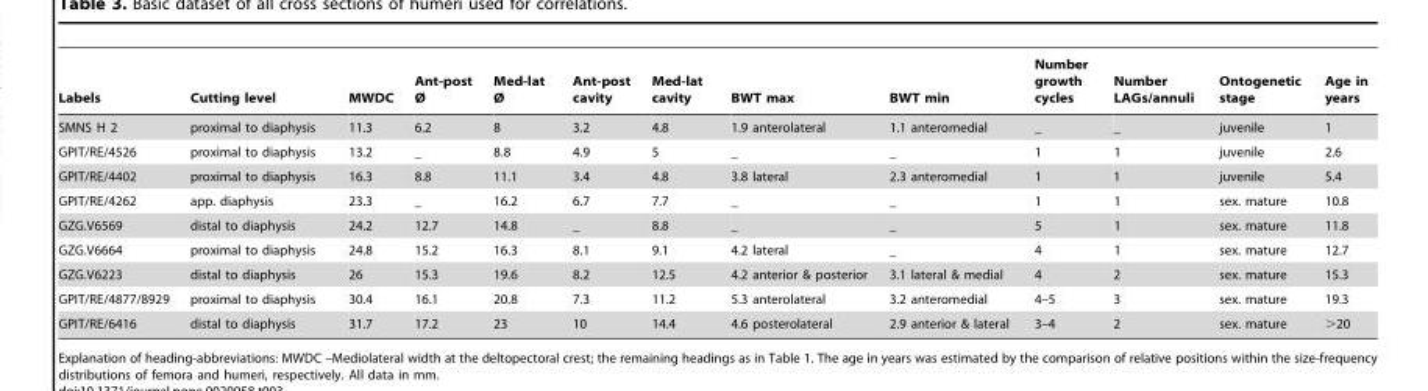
<table><thead><tr><td>Labels</td><td>Cutting level</td><td>MWDC</td><td>Ant-post Ø</td><td>Med-lat Ø</td><td>Ant-post cavity</td><td>Med-lat cavity</td><td>BWT max</td><td>BWT min</td><td>Number growth cycles</td><td>Number LAGs/annuli</td><td>Ontogenetic stage</td><td>Age in years</td></tr></thead><tbody><tr><td>SMNS H 2</td><td>proximal to diaphysis</td><td>11.3</td><td>6.2</td><td>8</td><td>3.2</td><td>4.8</td><td>1.9 anterolateral</td><td>1.1 anteromedial</td><td>―</td><td>―</td><td>juvenile</td><td>1</td></tr><tr><td>GPIT/RE/4526</td><td>proximal to diaphysis</td><td>13.2</td><td>―</td><td>8.8</td><td>4.9</td><td>5</td><td>―</td><td>―</td><td>1</td><td>1</td><td>juvenile</td><td>2.6</td></tr><tr><td>GPIT/RE/4402</td><td>proximal to diaphysis</td><td>16.3</td><td>8.8</td><td>11.1</td><td>3.4</td><td>4.8</td><td>3.8 lateral</td><td>2.3 anteromedial</td><td>1</td><td>1</td><td>juvenile</td><td>5.4</td></tr><tr><td>GPIT/RE/4262</td><td>app. diaphysis</td><td>23.3</td><td>―</td><td>16.2</td><td>6.7</td><td>7.7</td><td>―</td><td>―</td><td>1</td><td>1</td><td>sex. mature</td><td>10.8</td></tr><tr><td>GZG.V6569</td><td>distal to diaphysis</td><td>24.2</td><td>12.7</td><td>14.8</td><td>―</td><td>8.8</td><td>―</td><td>―</td><td>5</td><td>1</td><td>sex. mature</td><td>11.8</td></tr><tr><td>GZG.V6664</td><td>proximal to diaphysis</td><td>24.8</td><td>15.2</td><td>16.3</td><td>8.1</td><td>9.1</td><td>4.2 lateral</td><td>―</td><td>4</td><td>1</td><td>sex. mature</td><td>12.7</td></tr><tr><td>GZG.V6223</td><td>distal to diaphysis</td><td>26</td><td>15.3</td><td>19.6</td><td>8.2</td><td>12.5</td><td>4.2 anterior &amp; posterior</td><td>3.1 lateral &amp; medial</td><td>4</td><td>2</td><td>sex. mature</td><td>15.3</td></tr><tr><td>GPIT/RE/4877/8929</td><td>proximal to diaphysis</td><td>30.4</td><td>16.1</td><td>20.8</td><td>7.3</td><td>11.2</td><td>5.3 anterolateral</td><td>3.2 anteromedial</td><td>4–5</td><td>3</td><td>sex. mature</td><td>19.3</td></tr><tr><td>GPIT/RE/6416</td><td>distal to diaphysis</td><td>31.7</td><td>17.2</td><td>23</td><td>10</td><td>14.4</td><td>4.6 posterolateral</td><td>2.9 anterior &amp; lateral</td><td>3–4</td><td>2</td><td>sex. mature</td><td>&gt;20</td></tr></tbody></table>